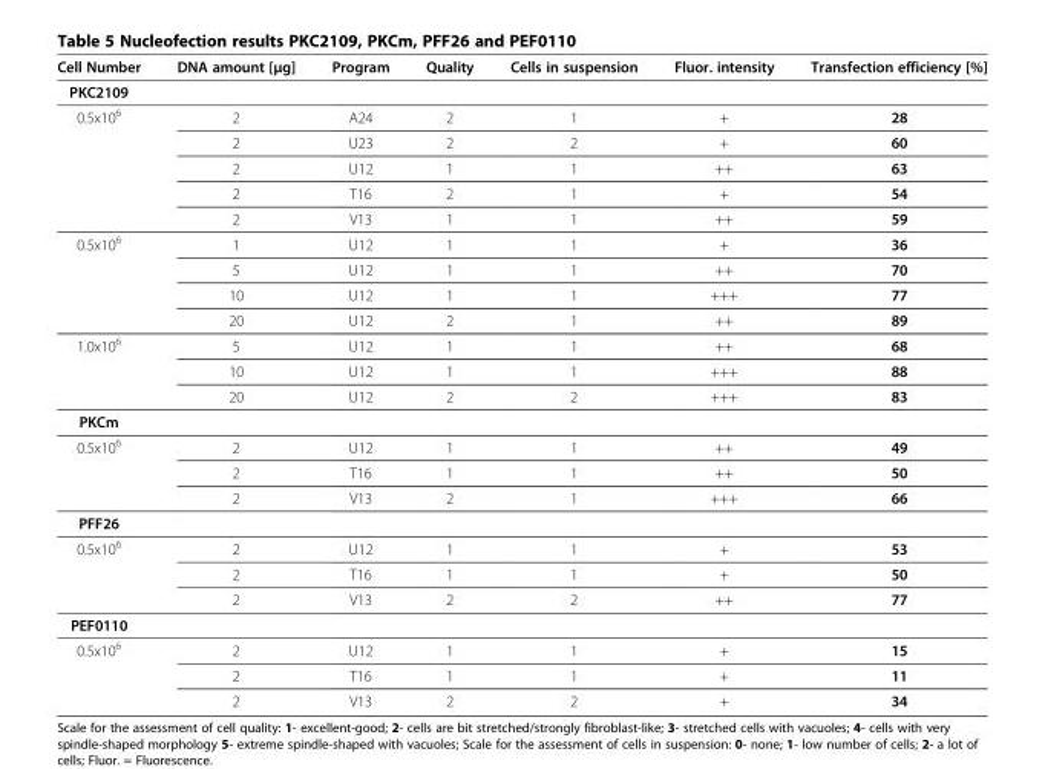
<table><thead><tr><td>Cell Number</td><td>DNA amount [μg]</td><td>Program</td><td>Quality</td><td>Cells in suspension</td><td>Fluor. intensity</td><td>Transfection efficiency [%]</td></tr></thead><tbody><tr><td colspan="7">PKC2109</td></tr><tr><td rowspan="5">0.5x10<sup>6</sup></td><td>2</td><td>A24</td><td>2</td><td>1</td><td>+</td><td>28</td></tr><tr><td>2</td><td>U23</td><td>2</td><td>2</td><td>+</td><td>60</td></tr><tr><td>2</td><td>U12</td><td>1</td><td>1</td><td>++</td><td>63</td></tr><tr><td>2</td><td>T16</td><td>2</td><td>1</td><td>+</td><td>54</td></tr><tr><td>2</td><td>V13</td><td>1</td><td>1</td><td>++</td><td>59</td></tr><tr><td rowspan="4">0.5x10<sup>6</sup></td><td>1</td><td>U12</td><td>1</td><td>1</td><td>+</td><td>36</td></tr><tr><td>5</td><td>U12</td><td>1</td><td>1</td><td>++</td><td>70</td></tr><tr><td>10</td><td>U12</td><td>1</td><td>1</td><td>+++</td><td>77</td></tr><tr><td>20</td><td>U12</td><td>2</td><td>1</td><td>++</td><td>89</td></tr><tr><td rowspan="3">1.0x10<sup>6</sup></td><td>5</td><td>U12</td><td>1</td><td>1</td><td>++</td><td>68</td></tr><tr><td>10</td><td>U12</td><td>1</td><td>1</td><td>+++</td><td>88</td></tr><tr><td>20</td><td>U12</td><td>2</td><td>2</td><td>+++</td><td>83</td></tr><tr><td colspan="7">PKCm</td></tr><tr><td rowspan="3">0.5x10<sup>6</sup></td><td>2</td><td>U12</td><td>1</td><td>1</td><td>++</td><td>49</td></tr><tr><td>2</td><td>T16</td><td>1</td><td>1</td><td>++</td><td>50</td></tr><tr><td>2</td><td>V13</td><td>2</td><td>1</td><td>+++</td><td>66</td></tr><tr><td colspan="7">PFF26</td></tr><tr><td rowspan="3">0.5x10<sup>6</sup></td><td>2</td><td>U12</td><td>1</td><td>1</td><td>+</td><td>53</td></tr><tr><td>2</td><td>T16</td><td>1</td><td>1</td><td>+</td><td>50</td></tr><tr><td>2</td><td>V13</td><td>2</td><td>2</td><td>++</td><td>77</td></tr><tr><td colspan="7">PEF0110</td></tr><tr><td rowspan="3">0.5x10<sup>6</sup></td><td>2</td><td>U12</td><td>1</td><td>1</td><td>+</td><td>15</td></tr><tr><td>2</td><td>T16</td><td>1</td><td>1</td><td>+</td><td>11</td></tr><tr><td>2</td><td>V13</td><td>2</td><td>2</td><td>+</td><td>34</td></tr></tbody></table>